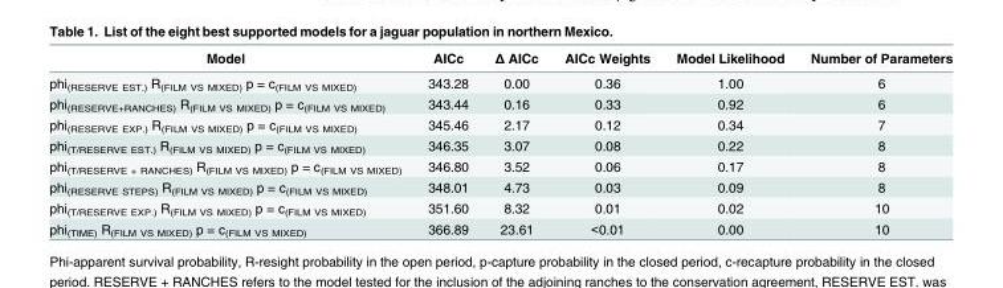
<table><thead><tr><td>Model</td><td>AICc</td><td>Δ AICc</td><td>AICc Weights</td><td>Model Likelihood</td><td>Number of Parameters</td></tr></thead><tbody><tr><td>phi<sub>(RESERVE EST.)</sub> R<sub>(FILM VS MIXED)</sub> p = c<sub>(FILM VS MIXED)</sub></td><td>343.28</td><td>0.00</td><td>0.36</td><td>1.00</td><td>6</td></tr><tr><td>phi<sub>(RESERVE+RANCHES)</sub> R<sub>(FILM VS MIXED)</sub> p = c<sub>(FILM VS MIXED)</sub></td><td>343.44</td><td>0.16</td><td>0.33</td><td>0.92</td><td>6</td></tr><tr><td>phi<sub>(RESERVE EXP.)</sub> R<sub>(FILM VS MIXED)</sub> p = c<sub>(FILM VS MIXED)</sub></td><td>345.46</td><td>2.17</td><td>0.12</td><td>0.34</td><td>7</td></tr><tr><td>phi<sub>(T/RESERVE EST.)</sub> R<sub>(FILM VS MIXED)</sub> p = c<sub>(FILM VS MIXED)</sub></td><td>346.35</td><td>3.07</td><td>0.08</td><td>0.22</td><td>8</td></tr><tr><td>phi<sub>(T/RESERVE + RANCHES)</sub> R<sub>(FILM VS MIXED)</sub> p = c<sub>(FILM VS MIXED)</sub></td><td>346.80</td><td>3.52</td><td>0.06</td><td>0.17</td><td>8</td></tr><tr><td>phi<sub>(RESERVE STEPS)</sub> R<sub>(FILM VS MIXED)</sub> p = c<sub>(FILM VS MIXED)</sub></td><td>348.01</td><td>4.73</td><td>0.03</td><td>0.09</td><td>8</td></tr><tr><td>phi<sub>(T/RESERVE EXP.)</sub> R<sub>(FILM VS MIXED)</sub> p = c<sub>(FILM VS MIXED)</sub></td><td>351.60</td><td>8.32</td><td>0.01</td><td>0.02</td><td>10</td></tr><tr><td>phi<sub>(TIME)</sub> R<sub>(FILM VS MIXED)</sub> p = c<sub>(FILM VS MIXED)</sub></td><td>366.89</td><td>23.61</td><td>&lt;0.01</td><td>0.00</td><td>10</td></tr></tbody></table>